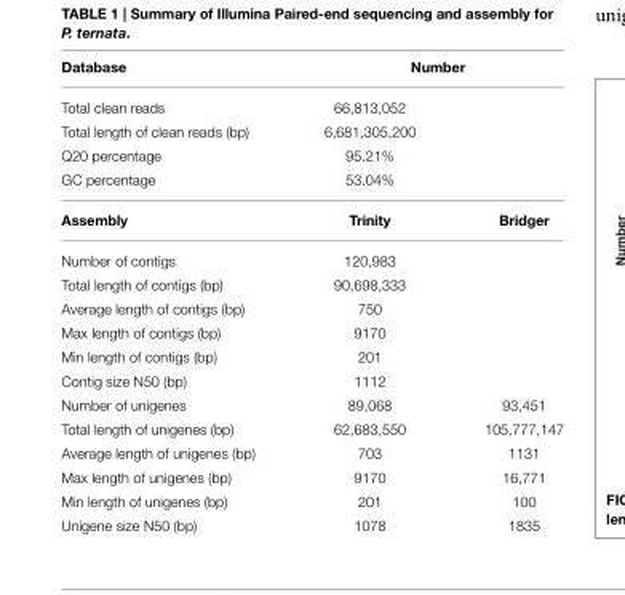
<table><thead><tr><td rowspan="2">Database Total clean reads</td><td colspan="2">Number</td></tr><tr><td>66,813,052</td><td></td></tr></thead><tbody><tr><td>Total length of clean reads (bp)</td><td>6,681,305,200</td><td></td></tr><tr><td>Q20 percentage</td><td>95.21%</td><td></td></tr><tr><td>GC percentage</td><td>53.04%</td><td></td></tr><tr><td>Assembly</td><td>Trinity</td><td>Bridger</td></tr><tr><td>Number of contigs</td><td>120,983</td><td></td></tr><tr><td>Total length of contigs (bp)</td><td>90,698,333</td><td></td></tr><tr><td>Average length of contigs (bp)</td><td>750</td><td></td></tr><tr><td>Max length of contigs (bp)</td><td>9170</td><td></td></tr><tr><td>Min length of contigs (bp)</td><td>201</td><td></td></tr><tr><td>Contig size N50 (bp)</td><td>1112</td><td></td></tr><tr><td>Number of unigenes</td><td>89,068</td><td>93,451</td></tr><tr><td>Total length of unigenes (bp)</td><td>62,683,550</td><td>105,777,147</td></tr><tr><td>Average length of unigenes (bp)</td><td>703</td><td>1131</td></tr><tr><td>Max length of unigenes (bp)</td><td>9170</td><td>16,771</td></tr><tr><td>Min length of unigenes (bp)</td><td>201</td><td>100</td></tr><tr><td>Unigene size N50 (bp)</td><td>1078</td><td>1835</td></tr></tbody></table>